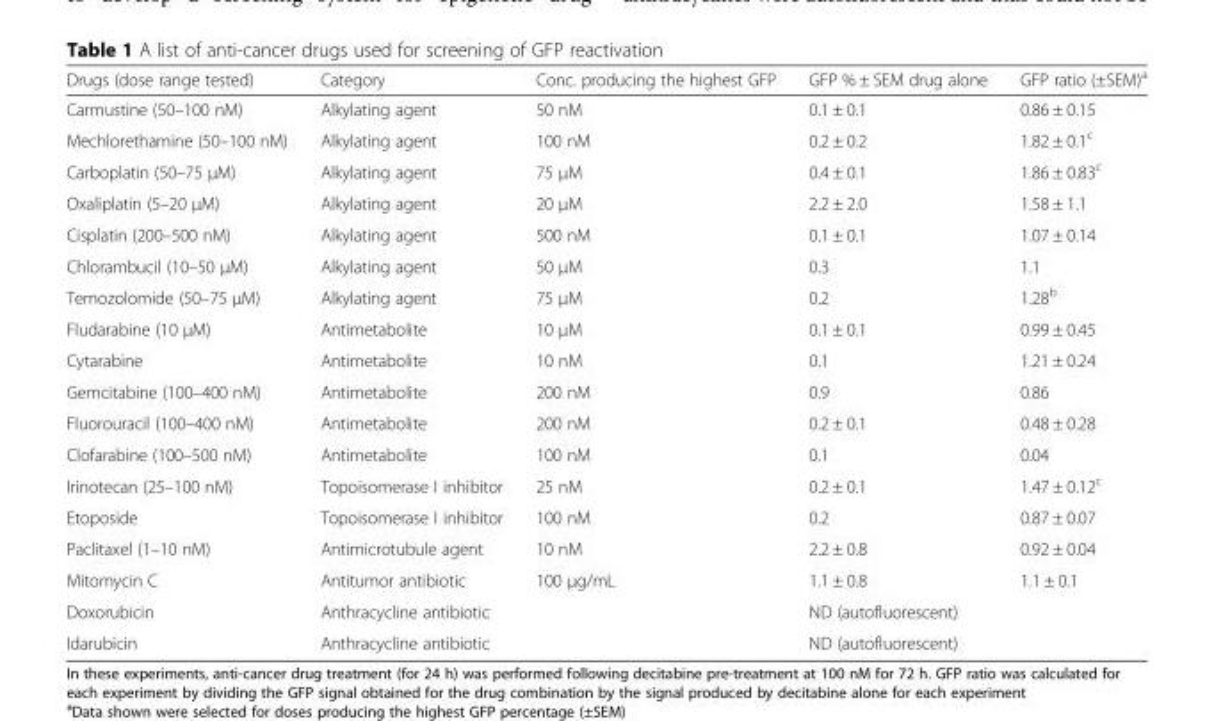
<table><thead><tr><td>Drugs (dose range tested)</td><td>Category</td><td>Conc. producing the highest GFP</td><td>GFP % ± SEM drug alone</td><td>GFP ratio (±SEM)<sup>a</sup></td></tr></thead><tbody><tr><td>Carmustine (50–100 nM)</td><td>Alkylating agent</td><td>50 nM</td><td>0.1 ± 0.1</td><td>0.86 ± 0.15</td></tr><tr><td>Mechlorethamine (50–100 nM)</td><td>Alkylating agent</td><td>100 nM</td><td>0.2 ± 0.2</td><td>1.82 ± 0.1<sup>c</sup></td></tr><tr><td>Carboplatin (50–75 μM)</td><td>Alkylating agent</td><td>75 μM</td><td>0.4 ± 0.1</td><td>1.86 ± 0.83<sup>c</sup></td></tr><tr><td>Oxaliplatin (5–20 μM)</td><td>Alkylating agent</td><td>20 μM</td><td>2.2 ± 2.0</td><td>1.58 ± 1.1</td></tr><tr><td>Cisplatin (200–500 nM)</td><td>Alkylating agent</td><td>500 nM</td><td>0.1 ± 0.1</td><td>1.07 ± 0.14</td></tr><tr><td>Chlorambucil (10–50 μM)</td><td>Alkylating agent</td><td>50 μM</td><td>0.3</td><td>1.1</td></tr><tr><td>Temozolomide (50–75 μM)</td><td>Alkylating agent</td><td>75 μM</td><td>0.2</td><td>1.28<sup>b</sup></td></tr><tr><td>Fludarabine (10 μM)</td><td>Antimetabolite</td><td>10 μM</td><td>0.1 ± 0.1</td><td>0.99 ± 0.45</td></tr><tr><td>Cytarabine</td><td>Antimetabolite</td><td>10 nM</td><td>0.1</td><td>1.21 ± 0.24</td></tr><tr><td>Gemcitabine (100–400 nM)</td><td>Antimetabolite</td><td>200 nM</td><td>0.9</td><td>0.86</td></tr><tr><td>Fluorouracil (100–400 nM)</td><td>Antimetabolite</td><td>200 nM</td><td>0.2 ± 0.1</td><td>0.48 ± 0.28</td></tr><tr><td>Clofarabine (100–500 nM)</td><td>Antimetabolite</td><td>100 nM</td><td>0.1</td><td>0.04</td></tr><tr><td>Irinotecan (25–100 nM)</td><td>Topoisomerase I inhibitor</td><td>25 nM</td><td>0.2 ± 0.1</td><td>1.47 ± 0.12<sup>c</sup></td></tr><tr><td>Etoposide</td><td>Topoisomerase I inhibitor</td><td>100 nM</td><td>0.2</td><td>0.87 ± 0.07</td></tr><tr><td>Paclitaxel (1–10 nM)</td><td>Antimicrotubule agent</td><td>10 nM</td><td>2.2 ± 0.8</td><td>0.92 ± 0.04</td></tr><tr><td>Mitomycin C</td><td>Antitumor antibiotic</td><td>100 μg/mL</td><td>1.1 ± 0.8</td><td>1.1 ± 0.1</td></tr><tr><td>Doxorubicin</td><td>Anthracycline antibiotic</td><td></td><td colspan="2">ND (autofluorescent)</td></tr><tr><td>Idarubicin</td><td>Anthracycline antibiotic</td><td></td><td colspan="2">ND (autofluorescent)</td></tr></tbody></table>